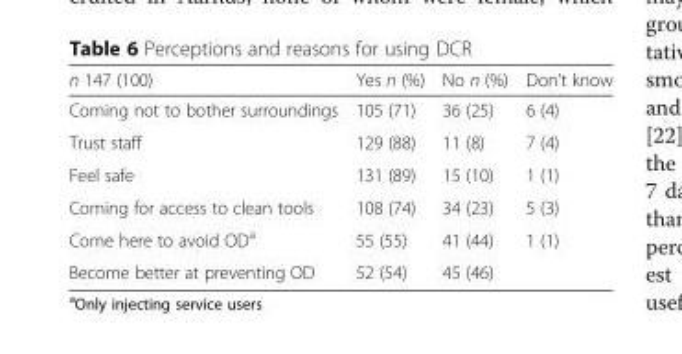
<table><thead><tr><td>n 147 (100)</td><td>Yes n (%)</td><td>No n (%)</td><td>Don’t know</td></tr></thead><tbody><tr><td>Coming not to bother surroundings</td><td>105 (71)</td><td>36 (25)</td><td>6 (4)</td></tr><tr><td>Trust staff</td><td>129 (88)</td><td>11 (8)</td><td>7 (4)</td></tr><tr><td>Feel safe</td><td>131 (89)</td><td>15 (10)</td><td>1 (1)</td></tr><tr><td>Coming for access to clean tools</td><td>108 (74)</td><td>34 (23)</td><td>5 (3)</td></tr><tr><td>Come here to avoid OD<sup>a</sup></td><td>55 (55)</td><td>41 (44)</td><td>1 (1)</td></tr><tr><td>Become better at preventing OD</td><td>52 (54)</td><td>45 (46)</td><td></td></tr></tbody></table>